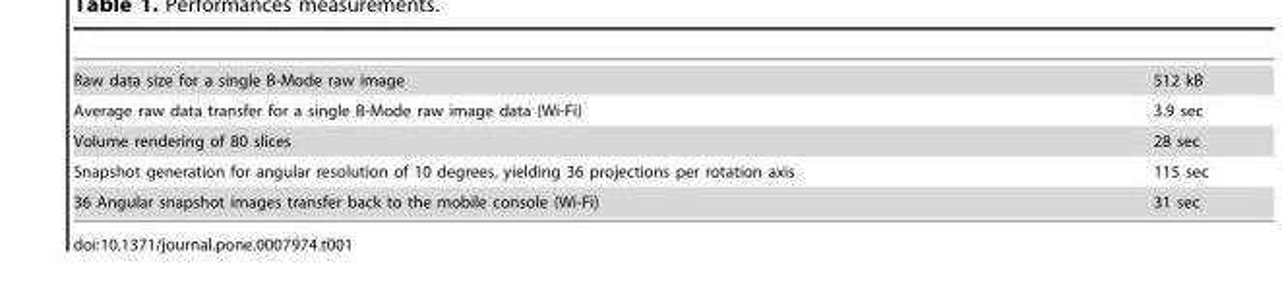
<table><tbody><tr><td>Raw data size for a single B-Mode raw image</td><td>512 kB</td></tr><tr><td>Average raw data transfer for a single B-Mode raw image data (Wi-Fi)</td><td>3.9 sec</td></tr><tr><td>Volume rendering of 80 slices</td><td>28 sec</td></tr><tr><td>Snapshot generation for angular resolution of 10 degrees, yielding 36 projections per rotation axis</td><td>115 sec</td></tr><tr><td>36 Angular snapshot images transfer back to the mobile console (Wi-Fi)</td><td>31 sec</td></tr></tbody></table>